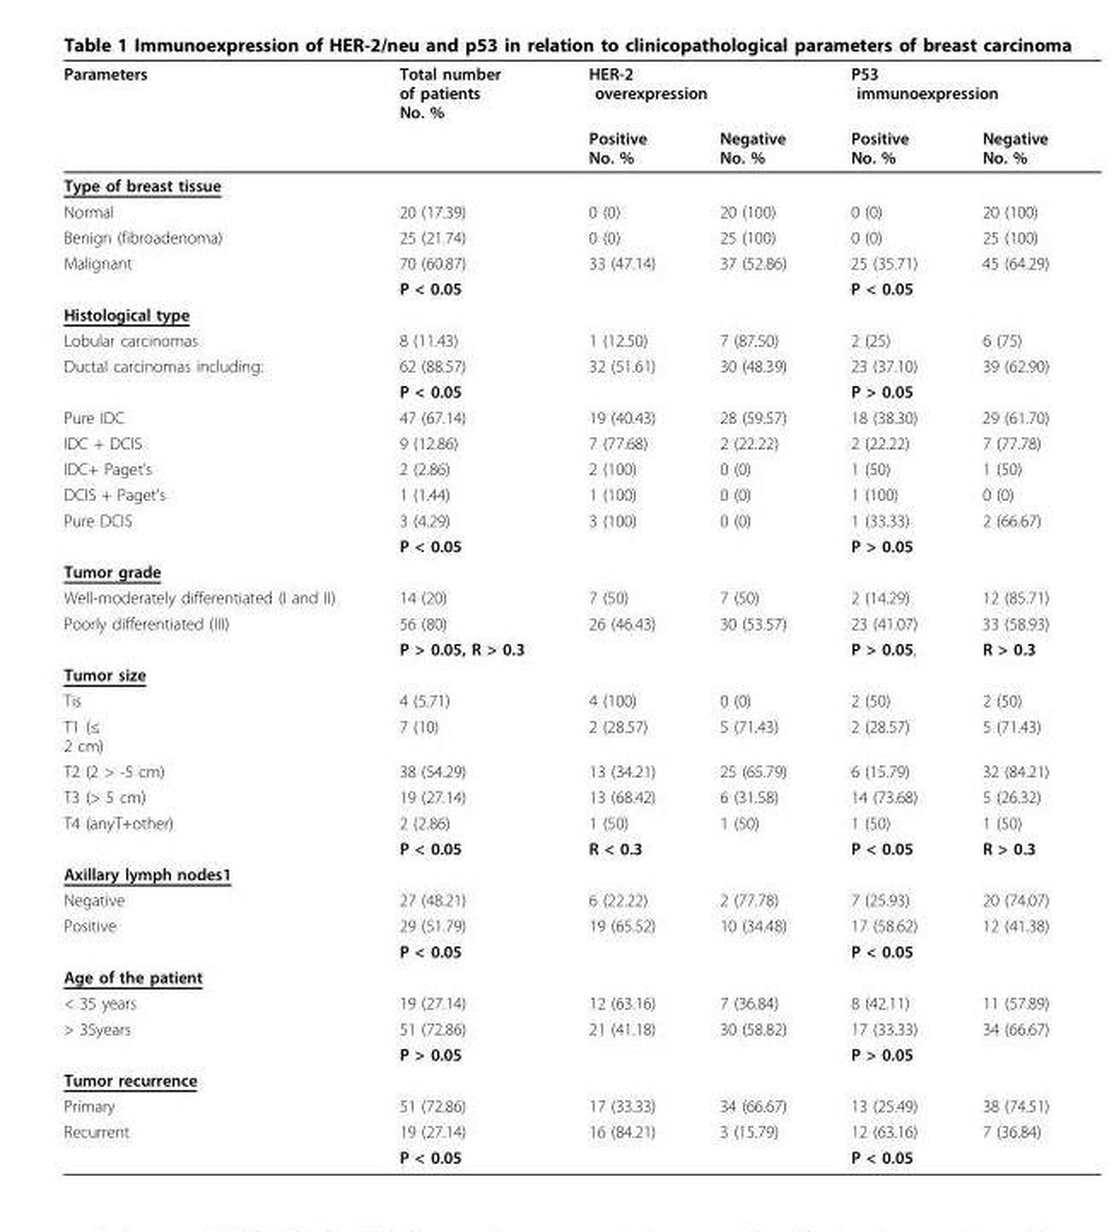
<table><thead><tr><td rowspan="2">Parameters</td><td rowspan="2">Total number of patients No. %</td><td colspan="2">HER-2 overexpression</td><td colspan="2">P53 immunoexpression</td></tr><tr><td>Positive No. %</td><td>Negative No. %</td><td>Positive No. %</td><td>Negative No. %</td></tr></thead><tbody><tr><td colspan="6">Type of breast tissue</td></tr><tr><td>Normal</td><td>20 (17.39)</td><td>0 (0)</td><td>20 (100)</td><td>0 (0)</td><td>20 (100)</td></tr><tr><td>Benign (fibroadenoma)</td><td>25 (21.74)</td><td>0 (0)</td><td>25 (100)</td><td>0 (0)</td><td>25 (100)</td></tr><tr><td rowspan="2">Malignant</td><td>70 (60.87)</td><td>33 (47.14)</td><td>37 (52.86)</td><td>25 (35.71)</td><td>45 (64.29)</td></tr><tr><td>P &lt; 0.05</td><td></td><td></td><td>P &lt; 0.05</td><td></td></tr><tr><td colspan="6">Histological type</td></tr><tr><td>Lobular carcinomas</td><td>8 (11.43)</td><td>1 (12.50)</td><td>7 (87.50)</td><td>2 (25)</td><td>6 (75)</td></tr><tr><td rowspan="2">Ductal carcinomas including:</td><td>62 (88.57)</td><td>32 (51.61)</td><td>30 (48.39)</td><td>23 (37.10)</td><td>39 (62.90)</td></tr><tr><td>P &lt; 0.05</td><td></td><td></td><td>P &gt; 0.05</td><td></td></tr><tr><td>Pure IDC</td><td>47 (67.14)</td><td>19 (40.43)</td><td>28 (59.57)</td><td>18 (38.30)</td><td>29 (61.70)</td></tr><tr><td>IDC + DCIS</td><td>9 (12.86)</td><td>7 (77.68)</td><td>2 (22.22)</td><td>2 (22.22)</td><td>7 (77.78)</td></tr><tr><td>IDC+ Paget’s</td><td>2 (2.86)</td><td>2 (100)</td><td>0 (0)</td><td>1 (50)</td><td>1 (50)</td></tr><tr><td>DCIS + Paget’s</td><td>1 (1.44)</td><td>1 (100)</td><td>0 (0)</td><td>1 (100)</td><td>0 (0)</td></tr><tr><td rowspan="2">Pure DCIS</td><td>3 (4.29)</td><td>3 (100)</td><td>0 (0)</td><td>1 (33.33)</td><td>2 (66.67)</td></tr><tr><td>P &lt; 0.05</td><td></td><td></td><td>P &gt; 0.05</td><td></td></tr><tr><td colspan="6">Tumor grade</td></tr><tr><td>Well-moderately differentiated (I and II)</td><td>14 (20)</td><td>7 (50)</td><td>7 (50)</td><td>2 (14.29)</td><td>12 (85.71)</td></tr><tr><td rowspan="2">Poorly differentiated (III)</td><td>56 (80)</td><td>26 (46.43)</td><td>30 (53.57)</td><td>23 (41.07)</td><td>33 (58.93)</td></tr><tr><td>P &gt; 0.05, R &gt; 0.3</td><td></td><td></td><td>P &gt; 0.05,</td><td>R &gt; 0.3</td></tr><tr><td colspan="6">Tumor size</td></tr><tr><td>Tis</td><td>4 (5.71)</td><td>4 (100)</td><td>0 (0)</td><td>2 (50)</td><td>2 (50)</td></tr><tr><td>T1 (≤ 2 cm)</td><td>7 (10)</td><td>2 (28.57)</td><td>5 (71.43)</td><td>2 (28.57)</td><td>5 (71.43)</td></tr><tr><td>T2 (2 &gt; -5 cm)</td><td>38 (54.29)</td><td>13 (34.21)</td><td>25 (65.79)</td><td>6 (15.79)</td><td>32 (84.21)</td></tr><tr><td>T3 (&gt; 5 cm)</td><td>19 (27.14)</td><td>13 (68.42)</td><td>6 (31.58)</td><td>14 (73.68)</td><td>5 (26.32)</td></tr><tr><td rowspan="2">T4 (anyT+other)</td><td>2 (2.86)</td><td>1 (50)</td><td>1 (50)</td><td>1 (50)</td><td>1 (50)</td></tr><tr><td>P &lt; 0.05</td><td>R &lt; 0.3</td><td></td><td>P &lt; 0.05</td><td>R &gt; 0.3</td></tr><tr><td colspan="6">Axillary lymph nodes1</td></tr><tr><td>Negative</td><td>27 (48.21)</td><td>6 (22.22)</td><td>2 (77.78)</td><td>7 (25.93)</td><td>20 (74.07)</td></tr><tr><td rowspan="2">Positive</td><td>29 (51.79)</td><td>19 (65.52)</td><td>10 (34.48)</td><td>17 (58.62)</td><td>12 (41.38)</td></tr><tr><td>P &lt; 0.05</td><td></td><td></td><td>P &lt; 0.05</td><td></td></tr><tr><td colspan="6">Age of the patient</td></tr><tr><td>&lt; 35 years</td><td>19 (27.14)</td><td>12 (63.16)</td><td>7 (36.84)</td><td>8 (42.11)</td><td>11 (57.89)</td></tr><tr><td rowspan="2">&gt; 35years</td><td>51 (72.86)</td><td>21 (41.18)</td><td>30 (58.82)</td><td>17 (33.33)</td><td>34 (66.67)</td></tr><tr><td>P &gt; 0.05</td><td></td><td></td><td>P &gt; 0.05</td><td></td></tr><tr><td colspan="6">Tumor recurrence</td></tr><tr><td>Primary</td><td>51 (72.86)</td><td>17 (33.33)</td><td>34 (66.67)</td><td>13 (25.49)</td><td>38 (74.51)</td></tr><tr><td rowspan="2">Recurrent</td><td>19 (27.14)</td><td>16 (84.21)</td><td>3 (15.79)</td><td>12 (63.16)</td><td>7 (36.84)</td></tr><tr><td>P &lt; 0.05</td><td></td><td></td><td>P &lt; 0.05</td><td></td></tr></tbody></table>